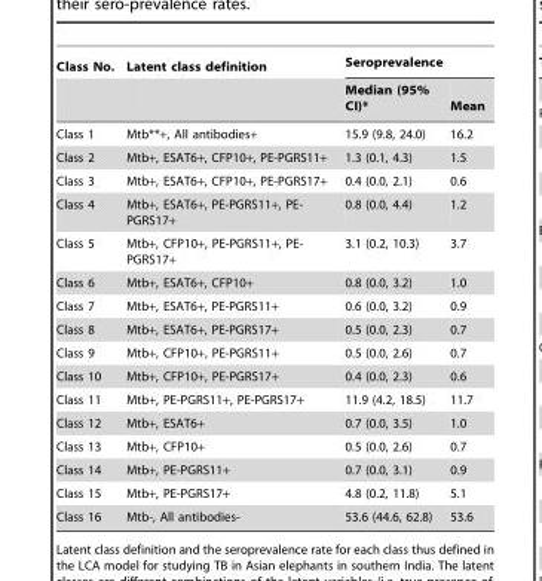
<table><thead><tr><td rowspan="2">Class No.</td><td rowspan="2">Latent class definition</td><td colspan="2">Seroprevalence</td></tr><tr><td>Median (95% CI)*</td><td>Mean</td></tr></thead><tbody><tr><td>Class 1</td><td>Mtb**+, All antibodies+</td><td>15.9 (9.8, 24.0)</td><td>16.2</td></tr><tr><td>Class 2</td><td>Mtb+, ESAT6+, CFP10+, PE-PGRS11+</td><td>1.3 (0.1, 4.3)</td><td>1.5</td></tr><tr><td>Class 3</td><td>Mtb+, ESAT6+, CFP10+, PE-PGRS17+</td><td>0.4 (0.0, 2.1)</td><td>0.6</td></tr><tr><td>Class 4</td><td>Mtb+, ESAT6+, PE-PGRS11+, PE- PGRS17+</td><td>0.8 (0.0, 4.4)</td><td>1.2</td></tr><tr><td>Class 5</td><td>Mtb+, CFP10+, PE-PGRS11+, PE- PGRS17+</td><td>3.1 (0.2, 10.3)</td><td>3.7</td></tr><tr><td>Class 6</td><td>Mtb+, ESAT6+, CFP10+</td><td>0.8 (0.0, 3.2)</td><td>1.0</td></tr><tr><td>Class 7</td><td>Mtb+, ESAT6+, PE-PGRS11+</td><td>0.6 (0.0, 3.2)</td><td>0.9</td></tr><tr><td>Class 8</td><td>Mtb+, ESAT6+, PE-PGRS17+</td><td>0.5 (0.0, 2.3)</td><td>0.7</td></tr><tr><td>Class 9</td><td>Mtb+, CFP10+, PE-PGRS11+</td><td>0.5 (0.0, 2.6)</td><td>0.7</td></tr><tr><td>Class 10</td><td>Mtb+, CFP10+, PE-PGRS17+</td><td>0.4 (0.0, 2.3)</td><td>0.6</td></tr><tr><td>Class 11</td><td>Mtb+, PE-PGRS11+, PE-PGRS17+</td><td>11.9 (4.2, 18.5)</td><td>11.7</td></tr><tr><td>Class 12</td><td>Mtb+, ESAT6+</td><td>0.7 (0.0, 3.5)</td><td>1.0</td></tr><tr><td>Class 13</td><td>Mtb+, CFP10+</td><td>0.5 (0.0, 2.6)</td><td>0.7</td></tr><tr><td>Class 14</td><td>Mtb+, PE-PGRS11+</td><td>0.7 (0.0, 3.1)</td><td>0.9</td></tr><tr><td>Class 15</td><td>Mtb+, PE-PGRS17+</td><td>4.8 (0.2, 11.8)</td><td>5.1</td></tr><tr><td>Class 16</td><td>Mtb-, All antibodies-</td><td>53.6 (44.6, 62.8)</td><td>53.6</td></tr></tbody></table>